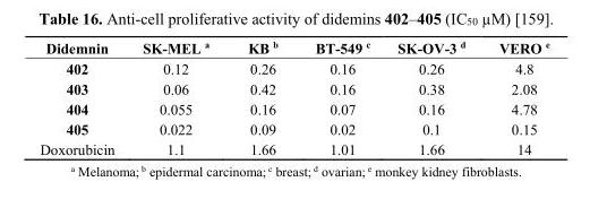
<table><thead><tr><td>Didemnin</td><td>SK-MEL <sup>a</sup></td><td>KB <sup>b</sup></td><td>BT-549 <sup>c</sup></td><td>SK-OV-3 <sup>d</sup></td><td>VERO <sup>e</sup></td></tr></thead><tbody><tr><td>402</td><td>0.12</td><td>0.26</td><td>0.16</td><td>0.26</td><td>4.8</td></tr><tr><td>403</td><td>0.06</td><td>0.42</td><td>0.16</td><td>0.38</td><td>2.08</td></tr><tr><td>404</td><td>0.055</td><td>0.16</td><td>0.07</td><td>0.16</td><td>4.78</td></tr><tr><td>405</td><td>0.022</td><td>0.09</td><td>0.02</td><td>0.1</td><td>0.15</td></tr><tr><td>Doxorubicin</td><td>1.1</td><td>1.66</td><td>1.01</td><td>1.66</td><td>14</td></tr></tbody></table>